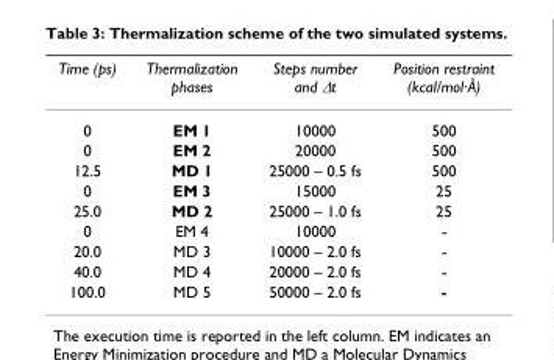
<table><thead><tr><td>Time (ps)</td><td>Thermalization phases</td><td>Steps number and ∆t</td><td>Position restraint (kcal/mol·Å)</td></tr></thead><tbody><tr><td>0</td><td>EM 1</td><td>10000</td><td>500</td></tr><tr><td>0</td><td>EM 2</td><td>20000</td><td>500</td></tr><tr><td>12.5</td><td>MD 1</td><td>25000 – 0.5 fs</td><td>500</td></tr><tr><td>0</td><td>EM 3</td><td>15000</td><td>25</td></tr><tr><td>25.0</td><td>MD 2</td><td>25000 – 1.0 fs</td><td>25</td></tr><tr><td>0</td><td>EM 4</td><td>10000</td><td>-</td></tr><tr><td>20.0</td><td>MD 3</td><td>10000 – 2.0 fs</td><td>-</td></tr><tr><td>40.0</td><td>MD 4</td><td>20000 – 2.0 fs</td><td>-</td></tr><tr><td>100.0</td><td>MD 5</td><td>50000 – 2.0 fs</td><td>-</td></tr></tbody></table>